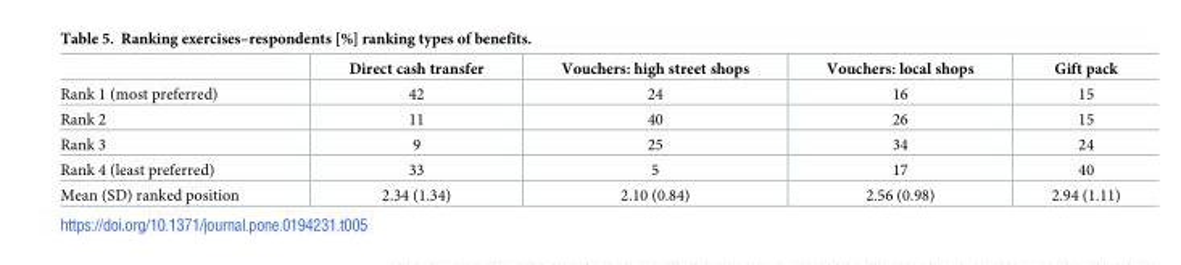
<table><thead><tr><td></td><td>Direct cash transfer</td><td>Vouchers: high street shops</td><td>Vouchers: local shops</td><td>Gift pack</td></tr></thead><tbody><tr><td>Rank 1 (most preferred)</td><td>42</td><td>24</td><td>16</td><td>15</td></tr><tr><td>Rank 2</td><td>11</td><td>40</td><td>26</td><td>15</td></tr><tr><td>Rank 3</td><td>9</td><td>25</td><td>34</td><td>24</td></tr><tr><td>Rank 4 (least preferred)</td><td>33</td><td>5</td><td>17</td><td>40</td></tr><tr><td>Mean (SD) ranked position</td><td>2.34 (1.34)</td><td>2.10 (0.84)</td><td>2.56 (0.98)</td><td>2.94 (1.11)</td></tr></tbody></table>